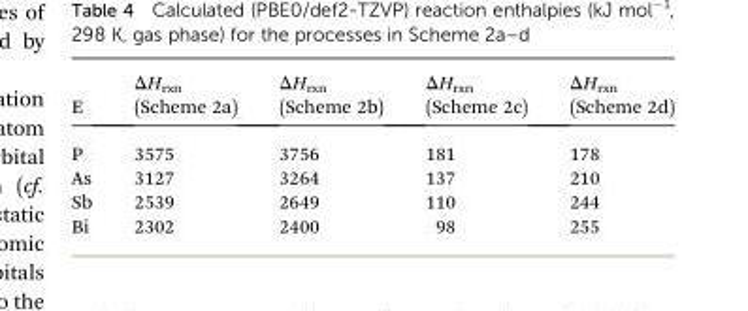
<table><thead><tr><td>E</td><td>ΔH<sub>rxn</sub> (Scheme 2a)</td><td>ΔH<sub>rxn</sub> (Scheme 2b)</td><td>ΔH<sub>rxn</sub> (Scheme 2c)</td><td>ΔH<sub>rxn</sub> (Scheme 2d)</td></tr></thead><tbody><tr><td>P</td><td>3575</td><td>3756</td><td>181</td><td>178</td></tr><tr><td>As</td><td>3127</td><td>3264</td><td>137</td><td>210</td></tr><tr><td>Sb</td><td>2539</td><td>2649</td><td>110</td><td>244</td></tr><tr><td>Bi</td><td>2302</td><td>2400</td><td>98</td><td>255</td></tr></tbody></table>